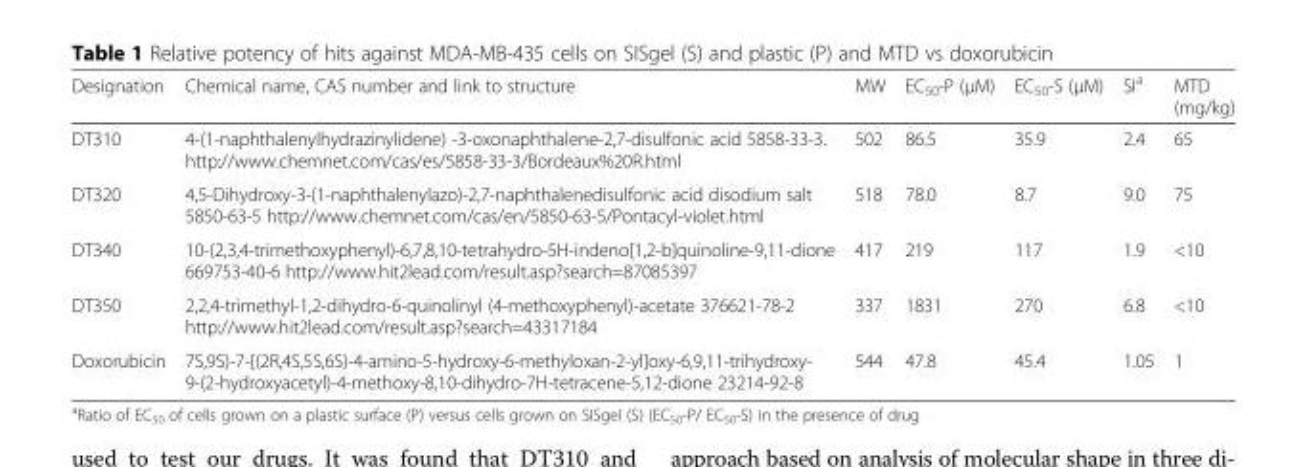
<table><thead><tr><td>Designation</td><td>Chemical name, CAS number and link to structure</td><td>MW</td><td>EC<sub>50</sub>-P (μM)</td><td>EC<sub>50</sub>-S (μM)</td><td>SI<sup>a</sup></td><td>MTD (mg/kg)</td></tr></thead><tbody><tr><td>DT310</td><td>4-(1-naphthalenylhydrazinylidene) -3-oxonaphthalene-2,7-disulfonic acid 5858-33-3. http://www.chemnet.com/cas/es/5858-33-3/Bordeaux%20R.html</td><td>502</td><td>86.5</td><td>35.9</td><td>2.4</td><td>65</td></tr><tr><td>DT320</td><td>4,5-Dihydroxy-3-(1-naphthalenylazo)-2,7-naphthalenedisulfonic acid disodium salt 5850-63-5 http://www.chemnet.com/cas/en/5850-63-5/Pontacyl-violet.html</td><td>518</td><td>78.0</td><td>8.7</td><td>9.0</td><td>75</td></tr><tr><td>DT340</td><td>10-(2,3,4-trimethoxyphenyl)-6,7,8,10-tetrahydro-5H-indeno[1,2-b]quinoline-9,11-dione 669753-40-6 http://www.hit2lead.com/result.asp?search=87085397</td><td>417</td><td>219</td><td>117</td><td>1.9</td><td>&lt;10</td></tr><tr><td>DT350</td><td>2,2,4-trimethyl-1,2-dihydro-6-quinolinyl (4-methoxyphenyl)-acetate 376621-78-2 http://www.hit2lead.com/result.asp?search=43317184</td><td>337</td><td>1831</td><td>270</td><td>6.8</td><td>&lt;10</td></tr><tr><td>Doxorubicin</td><td>7S,9S)-7-[(2R,4S,5S,6S)-4-amino-5-hydroxy-6-methyloxan-2-yl]oxy-6,9,11-trihydroxy- 9-(2-hydroxyacetyl)-4-methoxy-8,10-dihydro-7H-tetracene-5,12-dione 23214-92-8</td><td>544</td><td>47.8</td><td>45.4</td><td>1.05</td><td>1</td></tr></tbody></table>